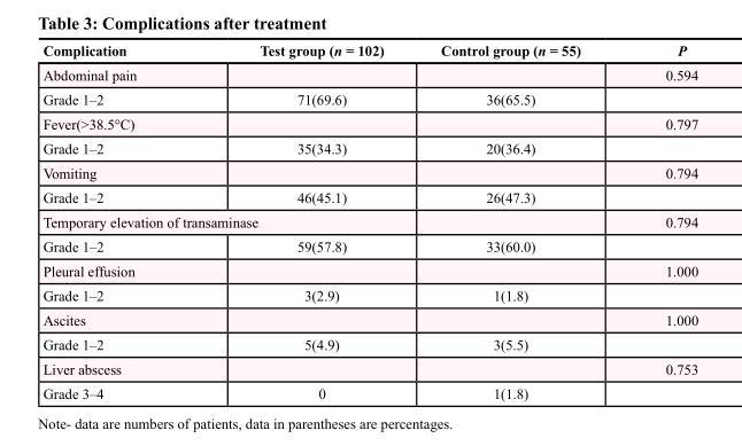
<table><thead><tr><td>Complication</td><td>Test group (n = 102)</td><td>Control group (n = 55)</td><td>P</td></tr></thead><tbody><tr><td>Abdominal pain</td><td></td><td></td><td>0.594</td></tr><tr><td>Grade 1–2</td><td>71(69.6)</td><td>36(65.5)</td><td></td></tr><tr><td>Fever(&gt;38.5°C)</td><td></td><td></td><td>0.797</td></tr><tr><td>Grade 1–2</td><td>35(34.3)</td><td>20(36.4)</td><td></td></tr><tr><td>Vomiting</td><td></td><td></td><td>0.794</td></tr><tr><td>Grade 1–2</td><td>46(45.1)</td><td>26(47.3)</td><td></td></tr><tr><td colspan="2">Temporary elevation of transaminase</td><td></td><td>0.794</td></tr><tr><td>Grade 1–2</td><td>59(57.8)</td><td>33(60.0)</td><td></td></tr><tr><td>Pleural effusion</td><td></td><td></td><td>1.000</td></tr><tr><td>Grade 1–2</td><td>3(2.9)</td><td>1(1.8)</td><td></td></tr><tr><td>Ascites</td><td></td><td></td><td>1.000</td></tr><tr><td>Grade 1–2</td><td>5(4.9)</td><td>3(5.5)</td><td></td></tr><tr><td>Liver abscess</td><td></td><td></td><td>0.753</td></tr><tr><td>Grade 3–4</td><td>0</td><td>1(1.8)</td><td></td></tr></tbody></table>